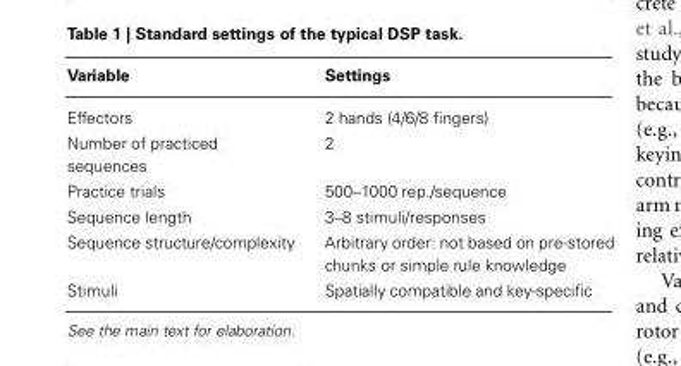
<table><thead><tr><td>Variable</td><td>Settings</td></tr></thead><tbody><tr><td>Effectors</td><td>2 hands (4/6/8 fingers)</td></tr><tr><td>Number of practiced sequences</td><td>2</td></tr><tr><td>Practice trials</td><td>500–1000 rep./sequence</td></tr><tr><td>Sequence length</td><td>3–8 stimuli/responses</td></tr><tr><td>Sequence structure/complexity</td><td>Arbitrary order: not based on pre-stored chunks or simple rule knowledge</td></tr><tr><td>Stimuli</td><td>Spatially compatible and key-specific</td></tr></tbody></table>